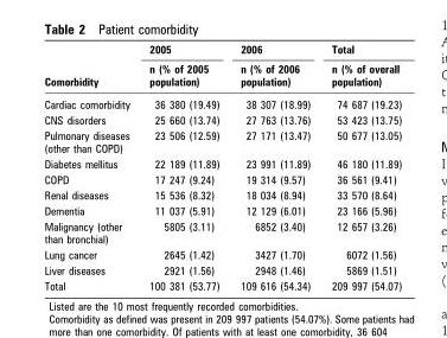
<table><thead><tr><td rowspan="2">Comorbidity</td><td rowspan="2">2005 n (% of 2005 population)</td><td rowspan="2">2006 n (% of 2006 population)</td><td rowspan="2">Total n (% of overall population)</td></tr><tr></tr></thead><tbody><tr><td>Cardiac comorbidity</td><td>36 380 (19.49)</td><td>38 307 (18.99)</td><td>74 687 (19.23)</td></tr><tr><td>CNS disorders</td><td>25 660 (13.74)</td><td>27 763 (13.76)</td><td>53 423 (13.75)</td></tr><tr><td>Pulmonary diseases (other than COPD)</td><td>23 506 (12.59)</td><td>27 171 (13.47)</td><td>50 677 (13.05)</td></tr><tr><td>Diabetes mellitus</td><td>22 189 (11.89)</td><td>23 991 (11.89)</td><td>46 180 (11.89)</td></tr><tr><td>COPD</td><td>17 247 (9.24)</td><td>19 314 (9.57)</td><td>36 561 (9.41)</td></tr><tr><td>Renal diseases</td><td>15 536 (8.32)</td><td>18 034 (8.94)</td><td>33 570 (8.64)</td></tr><tr><td>Dementia</td><td>11 037 (5.91)</td><td>12 129 (6.01)</td><td>23 166 (5.96)</td></tr><tr><td>Malignancy (other than bronchial)</td><td>5805 (3.11)</td><td>6852 (3.40)</td><td>12 657 (3.26)</td></tr><tr><td>Lung cancer</td><td>2645 (1.42)</td><td>3427 (1.70)</td><td>6072 (1.56)</td></tr><tr><td>Liver diseases</td><td>2921 (1.56)</td><td>2948 (1.46)</td><td>5869 (1.51)</td></tr><tr><td>Total</td><td>100 381 (53.77)</td><td>109 616 (54.34)</td><td>209 997 (54.07)</td></tr></tbody></table>